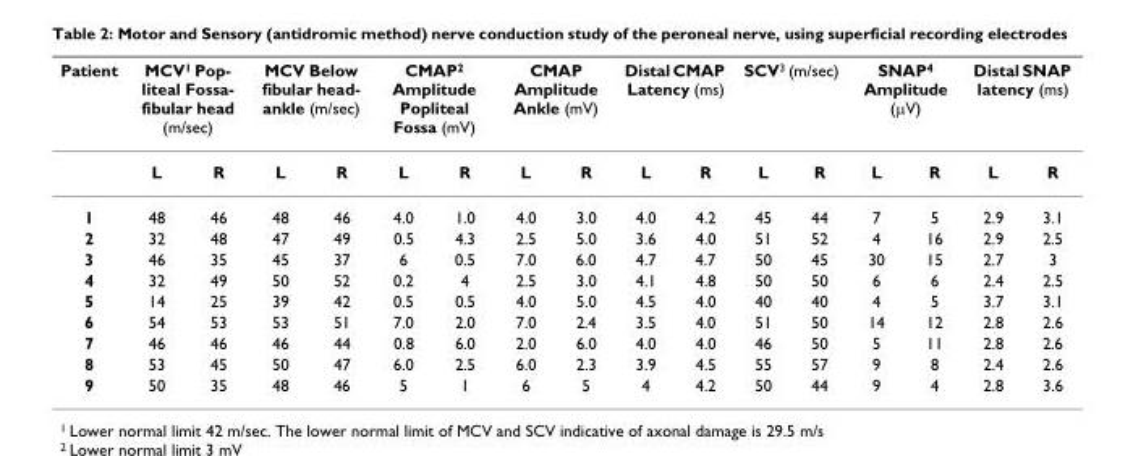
<table><thead><tr><td rowspan="2">Patient</td><td colspan="2">MCV1 Pop- liteal Fossa- fibular head (m/sec)</td><td colspan="2">MCV Below fibular head- ankle (m/sec)</td><td colspan="2">CMAP<sup>2</sup> Amplitude Popliteal Fossa (mV)</td><td colspan="2">CMAP Amplitude Ankle (mV)</td><td colspan="2">Distal CMAP Latency (ms)</td><td colspan="2">SCV<sup>3</sup> (m/sec)</td><td colspan="2">SNAP<sup>4</sup> Amplitude (μV)</td><td colspan="2">Distal SNAP latency (ms)</td></tr><tr><td>L</td><td>R</td><td>L</td><td>R</td><td>L</td><td>R</td><td>L</td><td>R</td><td>L</td><td>R</td><td>L</td><td>R</td><td>L</td><td>R</td><td>L</td><td>R</td></tr></thead><tbody><tr><td>1</td><td>48</td><td>46</td><td>48</td><td>46</td><td>4.0</td><td>1.0</td><td>4.0</td><td>3.0</td><td>4.0</td><td>4.2</td><td>45</td><td>44</td><td>7</td><td>5</td><td>2.9</td><td>3.1</td></tr><tr><td>2</td><td>32</td><td>48</td><td>47</td><td>49</td><td>0.5</td><td>4.3</td><td>2.5</td><td>5.0</td><td>3.6</td><td>4.0</td><td>51</td><td>52</td><td>4</td><td>16</td><td>2.9</td><td>2.5</td></tr><tr><td>3</td><td>46</td><td>35</td><td>45</td><td>37</td><td>6</td><td>0.5</td><td>7.0</td><td>6.0</td><td>4.7</td><td>4.7</td><td>50</td><td>45</td><td>30</td><td>15</td><td>2.7</td><td>3</td></tr><tr><td>4</td><td>32</td><td>49</td><td>50</td><td>52</td><td>0.2</td><td>4</td><td>2.5</td><td>3.0</td><td>4.1</td><td>4.8</td><td>50</td><td>50</td><td>6</td><td>6</td><td>2.4</td><td>2.5</td></tr><tr><td>5</td><td>14</td><td>25</td><td>39</td><td>42</td><td>0.5</td><td>0.5</td><td>4.0</td><td>5.0</td><td>4.5</td><td>4.0</td><td>40</td><td>40</td><td>4</td><td>5</td><td>3.7</td><td>3.1</td></tr><tr><td>6</td><td>54</td><td>53</td><td>53</td><td>51</td><td>7.0</td><td>2.0</td><td>7.0</td><td>2.4</td><td>3.5</td><td>4.0</td><td>51</td><td>50</td><td>14</td><td>12</td><td>2.8</td><td>2.6</td></tr><tr><td>7</td><td>46</td><td>46</td><td>46</td><td>44</td><td>0.8</td><td>6.0</td><td>2.0</td><td>6.0</td><td>4.0</td><td>4.0</td><td>46</td><td>50</td><td>5</td><td>11</td><td>2.8</td><td>2.6</td></tr><tr><td>8</td><td>53</td><td>45</td><td>50</td><td>47</td><td>6.0</td><td>2.5</td><td>6.0</td><td>2.3</td><td>3.9</td><td>4.5</td><td>55</td><td>57</td><td>9</td><td>8</td><td>2.4</td><td>2.6</td></tr><tr><td>9</td><td>50</td><td>35</td><td>48</td><td>46</td><td>5</td><td>1</td><td>6</td><td>5</td><td>4</td><td>4.2</td><td>50</td><td>44</td><td>9</td><td>4</td><td>2.8</td><td>3.6</td></tr></tbody></table>